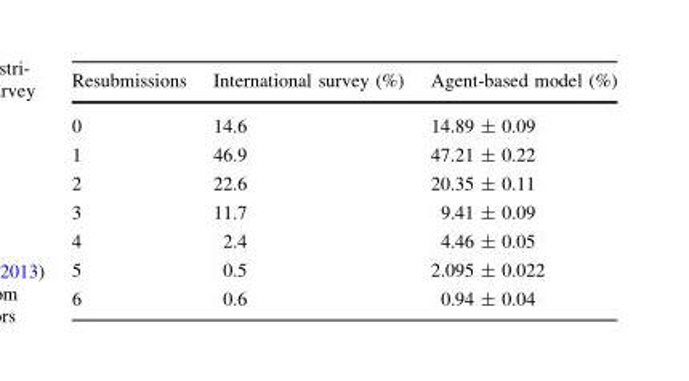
<table><thead><tr><td>Resubmissions</td><td>International survey (%)</td><td>Agent-based model (%)</td></tr></thead><tbody><tr><td>0</td><td>14.6</td><td>14.89 ± 0.09</td></tr><tr><td>1</td><td>46.9</td><td>47.21 ± 0.22</td></tr><tr><td>2</td><td>22.6</td><td>20.35 ± 0.11</td></tr><tr><td>3</td><td>11.7</td><td>9.41 ± 0.09</td></tr><tr><td>4</td><td>2.4</td><td>4.46 ± 0.05</td></tr><tr><td>5</td><td>0.5</td><td>2.095 ± 0.022</td></tr><tr><td>6</td><td>0.6</td><td>0.94 ± 0.04</td></tr></tbody></table>